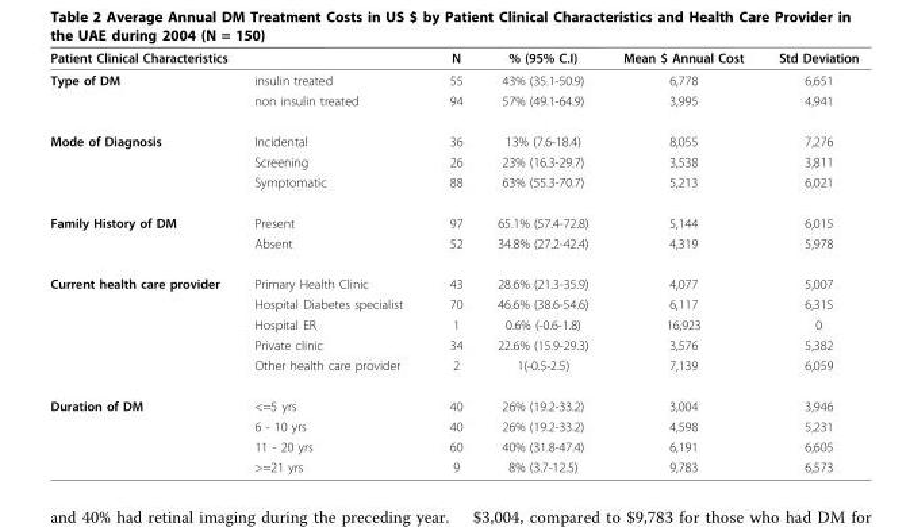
<table><thead><tr><td colspan="2">Patient Clinical Characteristics</td><td rowspan="2">N 55</td><td rowspan="2">% (95% C.I) 43% (35.1-50.9)</td><td rowspan="2">Mean $ Annual Cost 6,778</td><td rowspan="2">Std Deviation 6,651</td></tr><tr><td>Type of DM</td><td>insulin treated</td></tr></thead><tbody><tr><td></td><td>non insulin treated</td><td>94</td><td>57% (49.1-64.9)</td><td>3,995</td><td>4,941</td></tr><tr><td rowspan="3">Mode of Diagnosis</td><td>Incidental</td><td>36</td><td>13% (7.6-18.4)</td><td>8,055</td><td>7,276</td></tr><tr><td>Screening</td><td>26</td><td>23% (16.3-29.7)</td><td>3,538</td><td>3,811</td></tr><tr><td>Symptomatic</td><td>88</td><td>63% (55.3-70.7)</td><td>5,213</td><td>6,021</td></tr><tr><td rowspan="2">Family History of DM</td><td>Present</td><td>97</td><td>65.1% (57.4-72.8)</td><td>5,144</td><td>6,015</td></tr><tr><td>Absent</td><td>52</td><td>34.8% (27.2-42.4)</td><td>4,319</td><td>5,978</td></tr><tr><td rowspan="5">Current health care provider</td><td>Primary Health Clinic</td><td>43</td><td>28.6% (21.3-35.9)</td><td>4,077</td><td>5,007</td></tr><tr><td>Hospital Diabetes specialist</td><td>70</td><td>46.6% (38.6-54.6)</td><td>6,117</td><td>6,315</td></tr><tr><td>Hospital ER</td><td>1</td><td>0.6% (-0.6-1.8)</td><td>16,923</td><td>0</td></tr><tr><td>Private clinic</td><td>34</td><td>22.6% (15.9-29.3)</td><td>3,576</td><td>5,382</td></tr><tr><td>Other health care provider</td><td>2</td><td>1(-0.5-2.5)</td><td>7,139</td><td>6,059</td></tr><tr><td rowspan="4">Duration of DM</td><td>&lt;=5 yrs</td><td>40</td><td>26% (19.2-33.2)</td><td>3,004</td><td>3,946</td></tr><tr><td>6 - 10 yrs</td><td>40</td><td>26% (19.2-33.2)</td><td>4,598</td><td>5,231</td></tr><tr><td>11 - 20 yrs</td><td>60</td><td>40% (31.8-47.4)</td><td>6,191</td><td>6,605</td></tr><tr><td>&gt;=21 yrs</td><td>9</td><td>8% (3.7-12.5)</td><td>9,783</td><td>6,573</td></tr></tbody></table>